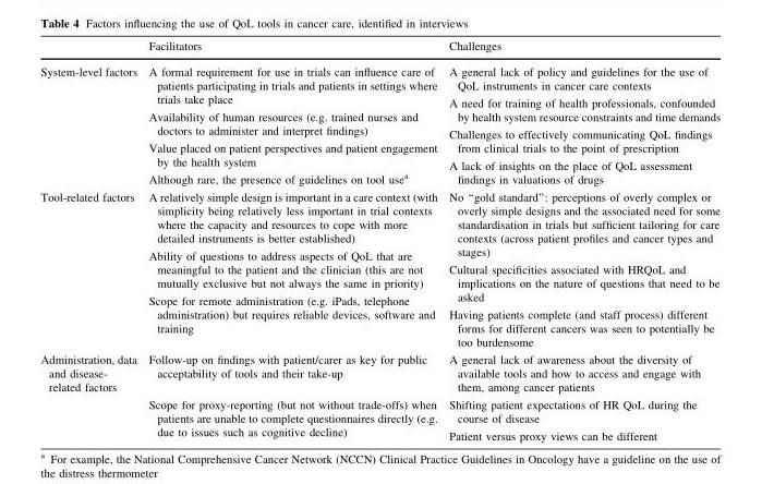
<table><thead><tr><td></td><td>Facilitators</td><td>Challenges</td></tr></thead><tbody><tr><td>System-level factors</td><td>A formal requirement for use in trials can influence care of patients participating in trials and patients in settings where trials take place Availability of human resources (e.g. trained nurses and doctors to administer and interpret findings) Value placed on patient perspectives and patient engagement by the health system Although rare, the presence of guidelines on tool use<sup>a</sup></td><td>A general lack of policy and guidelines for the use of QoL instruments in cancer care contexts A need for training of health professionals, confounded by health system resource constraints and time demands Challenges to effectively communicating QoL findings from clinical trials to the point of prescription A lack of insights on the place of QoL assessment findings in valuations of drugs</td></tr><tr><td>Tool-related factors</td><td>A relatively simple design is important in a care context (with simplicity being relatively less important in trial contexts where the capacity and resources to cope with more detailed instruments is better established) Ability of questions to address aspects of QoL that are meaningful to the patient and the clinician (this are not mutually exclusive but not always the same in priority) Scope for remote administration (e.g. iPads, telephone administration) but requires reliable devices, software and training</td><td>No ‘‘gold standard’’: perceptions of overly complex or overly simple designs and the associated need for some standardisation in trials but sufficient tailoring for care contexts (across patient profiles and cancer types and stages) Cultural specificities associated with HRQoL and implications on the nature of questions that need to be asked Having patients complete (and staff process) different forms for different cancers was seen to potentially be too burdensome</td></tr><tr><td rowspan="2">Administration, data and disease- related factors</td><td>Follow-up on findings with patient/carer as key for public acceptability of tools and their take-up</td><td>A general lack of awareness about the diversity of available tools and how to access and engage with them, among cancer patients</td></tr><tr><td>Scope for proxy-reporting (but not without trade-offs) when patients are unable to complete questionnaires directly (e.g. due to issues such as cognitive decline)</td><td>Shifting patient expectations of HR QoL during the course of disease Patient versus proxy views can be different</td></tr></tbody></table>